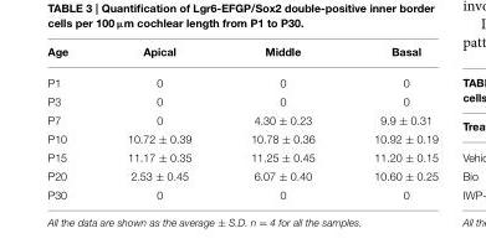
<table><thead><tr><td>Age</td><td>Apical</td><td>Middle</td><td>Basal</td></tr></thead><tbody><tr><td>P1</td><td>0</td><td>0</td><td>0</td></tr><tr><td>P3</td><td>0</td><td>0</td><td>0</td></tr><tr><td>P7</td><td>0</td><td>4.30 ± 0.23</td><td>9.9 ± 0.31</td></tr><tr><td>P10</td><td>10.72 ± 0.39</td><td>10.78 ± 0.36</td><td>10.92 ± 0.19</td></tr><tr><td>P15</td><td>11.17 ± 0.35</td><td>11.25 ± 0.45</td><td>11.20 ± 0.15</td></tr><tr><td>P20</td><td>2.53 ± 0.45</td><td>6.07 ± 0.40</td><td>10.60 ± 0.25</td></tr><tr><td>P30</td><td>0</td><td>0</td><td>0</td></tr></tbody></table>